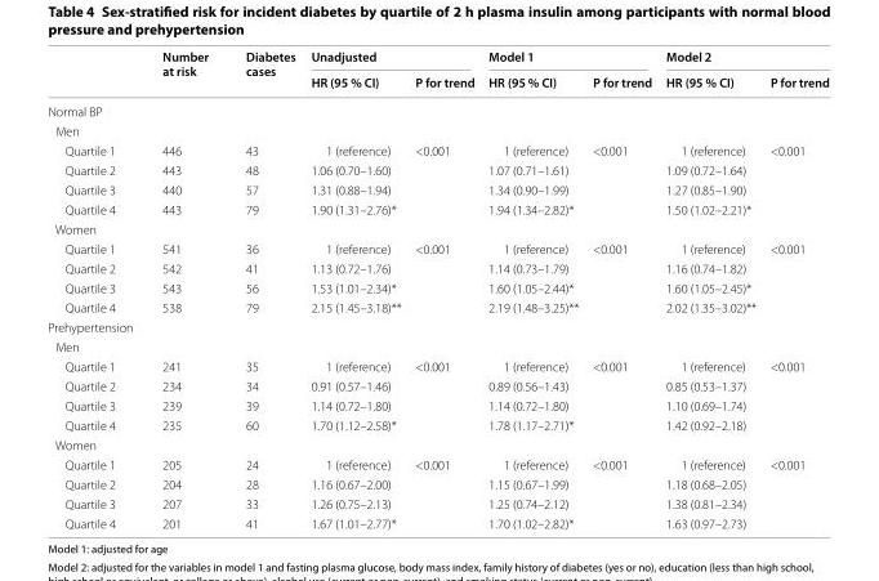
<table><thead><tr><td rowspan="2"></td><td rowspan="2">Number at risk</td><td rowspan="2">Diabetes cases</td><td colspan="2">Unadjusted</td><td colspan="2">Model 1</td><td colspan="2">Model 2</td></tr><tr><td>HR (95 % CI)</td><td>P for trend</td><td>HR (95 % CI)</td><td>P for trend</td><td>HR (95 % CI)</td><td>P for trend</td></tr></thead><tbody><tr><td colspan="9">Normal BP</td></tr><tr><td colspan="9">Men</td></tr><tr><td>Quartile 1</td><td>446</td><td>43</td><td>1 (reference)</td><td rowspan="4">&lt;0.001</td><td>1 (reference)</td><td rowspan="4">&lt;0.001</td><td>1 (reference)</td><td rowspan="4">&lt;0.001</td></tr><tr><td>Quartile 2</td><td>443</td><td>48</td><td>1.06 (0.70–1.60)</td><td>1.07 (0.71–1.61)</td><td>1.09 (0.72–1.64)</td></tr><tr><td>Quartile 3</td><td>440</td><td>57</td><td>1.31 (0.88–1.94)</td><td>1.34 (0.90–1.99)</td><td>1.27 (0.85–1.90)</td></tr><tr><td>Quartile 4</td><td>443</td><td>79</td><td>1.90 (1.31–2.76)*</td><td>1.94 (1.34–2.82)*</td><td>1.50 (1.02–2.21)*</td></tr><tr><td colspan="9">Women</td></tr><tr><td>Quartile 1</td><td>541</td><td>36</td><td>1 (reference)</td><td rowspan="4">&lt;0.001</td><td>1 (reference)</td><td rowspan="4">&lt;0.001</td><td>1 (reference)</td><td rowspan="4">&lt;0.001</td></tr><tr><td>Quartile 2</td><td>542</td><td>41</td><td>1.13 (0.72–1.76)</td><td>1.14 (0.73–1.79)</td><td>1.16 (0.74–1.82)</td></tr><tr><td>Quartile 3</td><td>543</td><td>56</td><td>1.53 (1.01–2.34)*</td><td>1.60 (1.05–2.44)*</td><td>1.60 (1.05–2.45)*</td></tr><tr><td>Quartile 4</td><td>538</td><td>79</td><td>2.15 (1.45–3.18)**</td><td>2.19 (1.48–3.25)**</td><td>2.02 (1.35–3.02)**</td></tr><tr><td colspan="9">Prehypertension</td></tr><tr><td colspan="9">Men</td></tr><tr><td>Quartile 1</td><td>241</td><td>35</td><td>1 (reference)</td><td rowspan="4">&lt;0.001</td><td>1 (reference)</td><td rowspan="4">&lt;0.001</td><td>1 (reference)</td><td rowspan="4">&lt;0.001</td></tr><tr><td>Quartile 2</td><td>234</td><td>34</td><td>0.91 (0.57–1.46)</td><td>0.89 (0.56–1.43)</td><td>0.85 (0.53–1.37)</td></tr><tr><td>Quartile 3</td><td>239</td><td>39</td><td>1.14 (0.72–1.80)</td><td>1.14 (0.72–1.80)</td><td>1.10 (0.69–1.74)</td></tr><tr><td>Quartile 4</td><td>235</td><td>60</td><td>1.70 (1.12–2.58)*</td><td>1.78 (1.17–2.71)*</td><td>1.42 (0.92–2.18)</td></tr><tr><td colspan="9">Women</td></tr><tr><td>Quartile 1</td><td>205</td><td>24</td><td>1 (reference)</td><td rowspan="4">&lt;0.001</td><td>1 (reference)</td><td rowspan="4">&lt;0.001</td><td>1 (reference)</td><td rowspan="4">&lt;0.001</td></tr><tr><td>Quartile 2</td><td>204</td><td>28</td><td>1.16 (0.67–2.00)</td><td>1.15 (0.67–1.99)</td><td>1.18 (0.68–2.05)</td></tr><tr><td>Quartile 3</td><td>207</td><td>33</td><td>1.26 (0.75–2.13)</td><td>1.25 (0.74–2.12)</td><td>1.38 (0.81–2.34)</td></tr><tr><td>Quartile 4</td><td>201</td><td>41</td><td>1.67 (1.01–2.77)*</td><td>1.70 (1.02–2.82)*</td><td>1.63 (0.97–2.73)</td></tr></tbody></table>